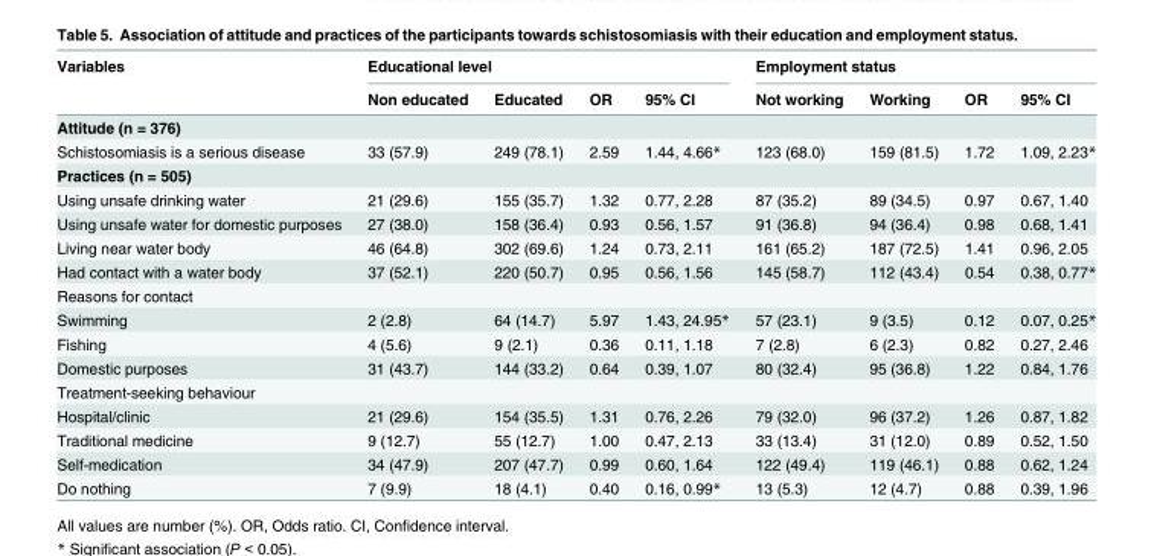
<table><thead><tr><td rowspan="2">Variables</td><td colspan="4">Educational level</td><td colspan="4">Employment status</td></tr><tr><td>Non educated</td><td>Educated</td><td>OR</td><td>95% CI</td><td>Not working</td><td>Working</td><td>OR</td><td>95% CI</td></tr></thead><tbody><tr><td colspan="9">Attitude (n = 376)</td></tr><tr><td>Schistosomiasis is a serious disease</td><td>33 (57.9)</td><td>249 (78.1)</td><td>2.59</td><td>1.44, 4.66*</td><td>123 (68.0)</td><td>159 (81.5)</td><td>1.72</td><td>1.09, 2.23*</td></tr><tr><td colspan="9">Practices (n = 505)</td></tr><tr><td>Using unsafe drinking water</td><td>21 (29.6)</td><td>155 (35.7)</td><td>1.32</td><td>0.77, 2.28</td><td>87 (35.2)</td><td>89 (34.5)</td><td>0.97</td><td>0.67, 1.40</td></tr><tr><td>Using unsafe water for domestic purposes</td><td>27 (38.0)</td><td>158 (36.4)</td><td>0.93</td><td>0.56, 1.57</td><td>91 (36.8)</td><td>94 (36.4)</td><td>0.98</td><td>0.68, 1.41</td></tr><tr><td>Living near water body</td><td>46 (64.8)</td><td>302 (69.6)</td><td>1.24</td><td>0.73, 2.11</td><td>161 (65.2)</td><td>187 (72.5)</td><td>1.41</td><td>0.96, 2.05</td></tr><tr><td>Had contact with a water body</td><td>37 (52.1)</td><td>220 (50.7)</td><td>0.95</td><td>0.56, 1.56</td><td>145 (58.7)</td><td>112 (43.4)</td><td>0.54</td><td>0.38, 0.77*</td></tr><tr><td colspan="9">Reasons for contact</td></tr><tr><td>Swimming</td><td>2 (2.8)</td><td>64 (14.7)</td><td>5.97</td><td>1.43, 24.95*</td><td>57 (23.1)</td><td>9 (3.5)</td><td>0.12</td><td>0.07, 0.25*</td></tr><tr><td>Fishing</td><td>4 (5.6)</td><td>9 (2.1)</td><td>0.36</td><td>0.11, 1.18</td><td>7 (2.8)</td><td>6 (2.3)</td><td>0.82</td><td>0.27, 2.46</td></tr><tr><td>Domestic purposes</td><td>31 (43.7)</td><td>144 (33.2)</td><td>0.64</td><td>0.39, 1.07</td><td>80 (32.4)</td><td>95 (36.8)</td><td>1.22</td><td>0.84, 1.76</td></tr><tr><td colspan="9">Treatment-seeking behaviour</td></tr><tr><td>Hospital/clinic</td><td>21 (29.6)</td><td>154 (35.5)</td><td>1.31</td><td>0.76, 2.26</td><td>79 (32.0)</td><td>96 (37.2)</td><td>1.26</td><td>0.87, 1.82</td></tr><tr><td>Traditional medicine</td><td>9 (12.7)</td><td>55 (12.7)</td><td>1.00</td><td>0.47, 2.13</td><td>33 (13.4)</td><td>31 (12.0)</td><td>0.89</td><td>0.52, 1.50</td></tr><tr><td>Self-medication</td><td>34 (47.9)</td><td>207 (47.7)</td><td>0.99</td><td>0.60, 1.64</td><td>122 (49.4)</td><td>119 (46.1)</td><td>0.88</td><td>0.62, 1.24</td></tr><tr><td>Do nothing</td><td>7 (9.9)</td><td>18 (4.1)</td><td>0.40</td><td>0.16, 0.99*</td><td>13 (5.3)</td><td>12 (4.7)</td><td>0.88</td><td>0.39, 1.96</td></tr></tbody></table>